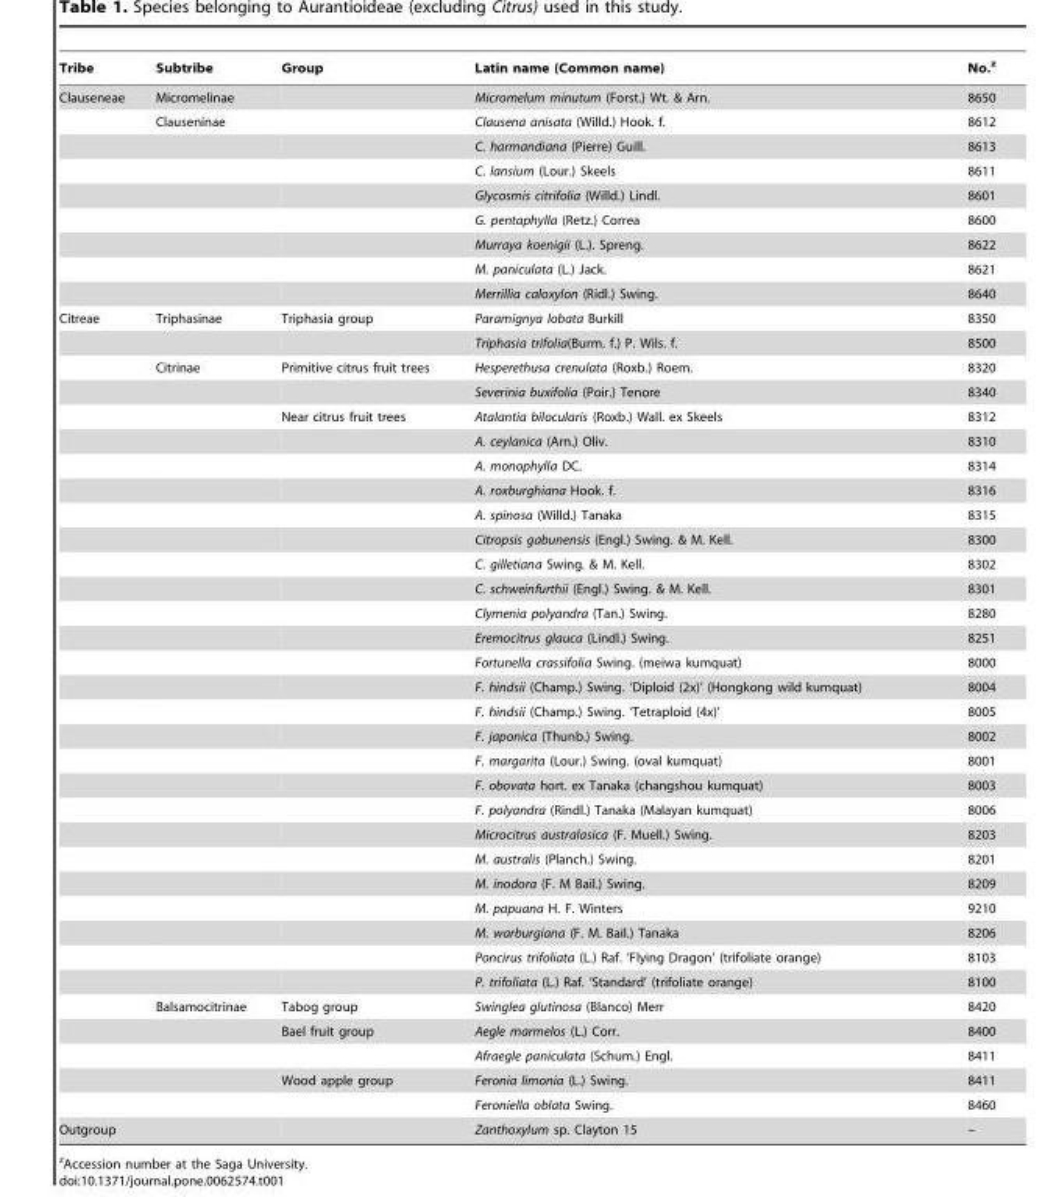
<table><thead><tr><td>Tribe</td><td>Subtribe</td><td>Group</td><td>Latin name (Common name)</td><td>No.<sup>z</sup></td></tr></thead><tbody><tr><td rowspan="9">Clauseneae</td><td>Micromelinae</td><td></td><td>Micromelum minutum (Forst.) Wt. &amp; Arn.</td><td>8650</td></tr><tr><td>Clauseninae</td><td></td><td>Clausena anisata (Willd.) Hook. f.</td><td>8612</td></tr><tr><td></td><td></td><td>C. harmandiana (Pierre) Guill.</td><td>8613</td></tr><tr><td></td><td></td><td>C. lansium (Lour.) Skeels</td><td>8611</td></tr><tr><td></td><td></td><td>Glycosmis citrifolia (Willd.) Lindl.</td><td>8601</td></tr><tr><td></td><td></td><td>G. pentaphylla (Retz.) Correa</td><td>8600</td></tr><tr><td></td><td></td><td>Murraya koenigii (L.). Spreng.</td><td>8622</td></tr><tr><td></td><td></td><td>M. paniculata (L.) Jack.</td><td>8621</td></tr><tr><td></td><td></td><td>Merrillia caloxylon (Ridl.) Swing.</td><td>8640</td></tr><tr><td rowspan="33">Citreae</td><td>Triphasinae</td><td>Triphasia group</td><td>Paramignya lobata Burkill</td><td>8350</td></tr><tr><td></td><td></td><td>Triphasia trifolia(Burm. f.) P. Wils. f.</td><td>8500</td></tr><tr><td>Citrinae</td><td>Primitive citrus fruit trees</td><td>Hesperethusa crenulata (Roxb.) Roem.</td><td>8320</td></tr><tr><td></td><td></td><td>Severinia buxifolia (Poir.) Tenore</td><td>8340</td></tr><tr><td></td><td>Near citrus fruit trees</td><td>Atalantia bilocularis (Roxb.) Wall. ex Skeels</td><td>8312</td></tr><tr><td></td><td></td><td>A. ceylanica (Arn.) Oliv.</td><td>8310</td></tr><tr><td></td><td></td><td>A. monophylla DC.</td><td>8314</td></tr><tr><td></td><td></td><td>A. roxburghiana Hook. f.</td><td>8316</td></tr><tr><td></td><td></td><td>A. spinosa (Willd.) Tanaka</td><td>8315</td></tr><tr><td></td><td></td><td>Citropsis gabunensis (Engl.) Swing. &amp; M. Kell.</td><td>8300</td></tr><tr><td></td><td></td><td>C. gilletiana Swing. &amp; M. Kell.</td><td>8302</td></tr><tr><td></td><td></td><td>C. schweinfurthii (Engl.) Swing. &amp; M. Kell.</td><td>8301</td></tr><tr><td></td><td></td><td>Clymenia polyandra (Tan.) Swing.</td><td>8280</td></tr><tr><td></td><td></td><td>Eremocitrus glauca (Lindl.) Swing.</td><td>8251</td></tr><tr><td></td><td></td><td>Fortunella crassifolia Swing. (meiwa kumquat)</td><td>8000</td></tr><tr><td></td><td></td><td>F. hindsii (Champ.) Swing. ‘Diploid (2x)’ (Hongkong wild kumquat)</td><td>8004</td></tr><tr><td></td><td></td><td>F. hindsii (Champ.) Swing. ‘Tetraploid (4x)’</td><td>8005</td></tr><tr><td></td><td></td><td>F. japonica (Thunb.) Swing.</td><td>8002</td></tr><tr><td></td><td></td><td>F. margarita (Lour.) Swing. (oval kumquat)</td><td>8001</td></tr><tr><td></td><td></td><td>F. obovata hort. ex Tanaka (changshou kumquat)</td><td>8003</td></tr><tr><td></td><td></td><td>F. polyandra (Rindl.) Tanaka (Malayan kumquat)</td><td>8006</td></tr><tr><td></td><td></td><td>Microcitrus australasica (F. Muell.) Swing.</td><td>8203</td></tr><tr><td></td><td></td><td>M. australis (Planch.) Swing.</td><td>8201</td></tr><tr><td></td><td></td><td>M. inodora (F. M Bail.) Swing.</td><td>8209</td></tr><tr><td></td><td></td><td>M. papuana H. F. Winters</td><td>9210</td></tr><tr><td></td><td></td><td>M. warburgiana (F. M. Bail.) Tanaka</td><td>8206</td></tr><tr><td></td><td></td><td>Poncirus trifoliata (L.) Raf. ‘Flying Dragon’ (trifoliate orange)</td><td>8103</td></tr><tr><td></td><td></td><td>P. trifoliata (L.) Raf. ‘Standard’ (trifoliate orange)</td><td>8100</td></tr><tr><td>Balsamocitrinae</td><td>Tabog group</td><td>Swinglea glutinosa (Blanco) Merr</td><td>8420</td></tr><tr><td></td><td>Bael fruit group</td><td>Aegle marmelos (L.) Corr.</td><td>8400</td></tr><tr><td></td><td></td><td>Afraegle paniculata (Schum.) Engl.</td><td>8411</td></tr><tr><td></td><td>Wood apple group</td><td>Feronia limonia (L.) Swing.</td><td>8411</td></tr><tr><td></td><td></td><td>Feroniella oblata Swing.</td><td>8460</td></tr><tr><td>Outgroup</td><td></td><td></td><td>Zanthoxylum sp. Clayton 15</td><td>–</td></tr></tbody></table>